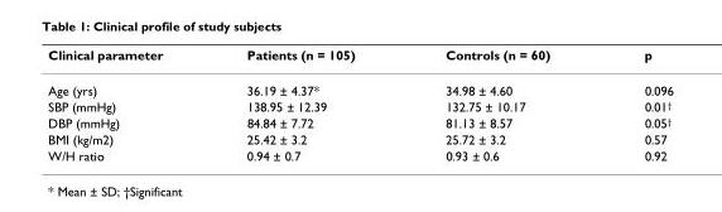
<table><thead><tr><td>Clinical parameter</td><td>Patients (n = 105)</td><td>Controls (n = 60)</td><td>p</td></tr></thead><tbody><tr><td>Age (yrs)</td><td>36.19 ± 4.37*</td><td>34.98 ± 4.60</td><td>0.096</td></tr><tr><td>SBP (mmHg)</td><td>138.95 ± 12.39</td><td>132.75 ± 10.17</td><td>0.01<sup>†</sup></td></tr><tr><td>DBP (mmHg)</td><td>84.84 ± 7.72</td><td>81.13 ± 8.57</td><td>0.05<sup>†</sup></td></tr><tr><td>BMI (kg/m2)</td><td>25.42 ± 3.2</td><td>25.72 ± 3.2</td><td>0.57</td></tr><tr><td>W/H ratio</td><td>0.94 ± 0.7</td><td>0.93 ± 0.6</td><td>0.92</td></tr></tbody></table>